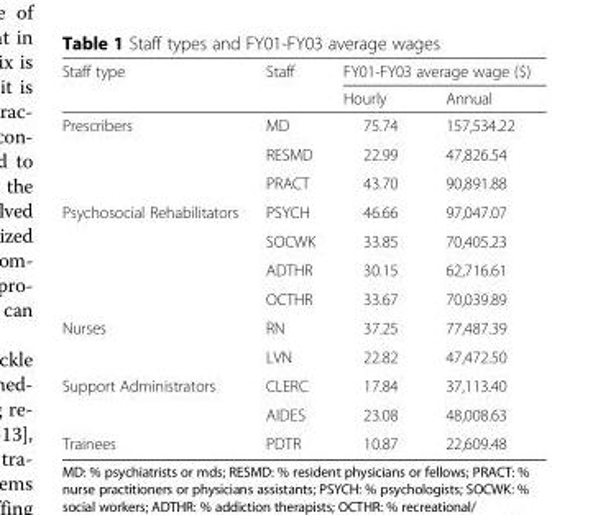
<table><thead><tr><td rowspan="2">Staff type</td><td rowspan="2">Staff</td><td colspan="2">FY01-FY03 average wage ($)</td></tr><tr><td>Hourly</td><td>Annual</td></tr></thead><tbody><tr><td rowspan="3">Prescribers</td><td>MD</td><td>75.74</td><td>157,534.22</td></tr><tr><td>RESMD</td><td>22.99</td><td>47,826.54</td></tr><tr><td>PRACT</td><td>43.70</td><td>90,891.88</td></tr><tr><td rowspan="4">Psychosocial Rehabilitators</td><td>PSYCH</td><td>46.66</td><td>97,047.07</td></tr><tr><td>SOCWK</td><td>33.85</td><td>70,405.23</td></tr><tr><td>ADTHR</td><td>30.15</td><td>62,716.61</td></tr><tr><td>OCTHR</td><td>33.67</td><td>70,039.89</td></tr><tr><td rowspan="2">Nurses</td><td>RN</td><td>37.25</td><td>77,487.39</td></tr><tr><td>LVN</td><td>22.82</td><td>47,472.50</td></tr><tr><td rowspan="2">Support Administrators</td><td>CLERC</td><td>17.84</td><td>37,113.40</td></tr><tr><td>AIDES</td><td>23.08</td><td>48,008.63</td></tr><tr><td>Trainees</td><td>PDTR</td><td>10.87</td><td>22,609.48</td></tr></tbody></table>